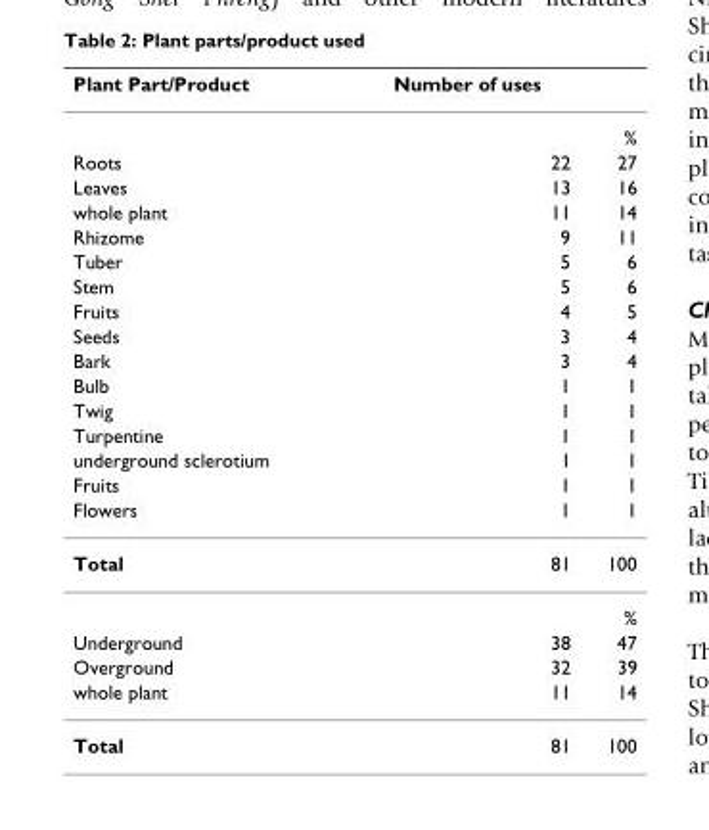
<table><thead><tr><td rowspan="2">Plant Part/Product</td><td colspan="2">Number of uses</td></tr><tr><td></td><td>%</td></tr></thead><tbody><tr><td>Roots</td><td>22</td><td>27</td></tr><tr><td>Leaves</td><td>13</td><td>16</td></tr><tr><td>whole plant</td><td>11</td><td>14</td></tr><tr><td>Rhizome</td><td>9</td><td>11</td></tr><tr><td>Tuber</td><td>5</td><td>6</td></tr><tr><td>Stem</td><td>5</td><td>6</td></tr><tr><td>Fruits</td><td>4</td><td>5</td></tr><tr><td>Seeds</td><td>3</td><td>4</td></tr><tr><td>Bark</td><td>3</td><td>4</td></tr><tr><td>Bulb</td><td>1</td><td>1</td></tr><tr><td>Twig</td><td>1</td><td>1</td></tr><tr><td>Turpentine</td><td>1</td><td>1</td></tr><tr><td>underground sclerotium</td><td>1</td><td>1</td></tr><tr><td>Fruits</td><td>1</td><td>1</td></tr><tr><td>Flowers</td><td>1</td><td>1</td></tr><tr><td rowspan="2">Total</td><td>81</td><td>100</td></tr><tr><td></td><td>%</td></tr><tr><td>Underground</td><td>38</td><td>47</td></tr><tr><td>Overground</td><td>32</td><td>39</td></tr><tr><td>whole plant</td><td>11</td><td>14</td></tr><tr><td>Total</td><td>81</td><td>100</td></tr></tbody></table>